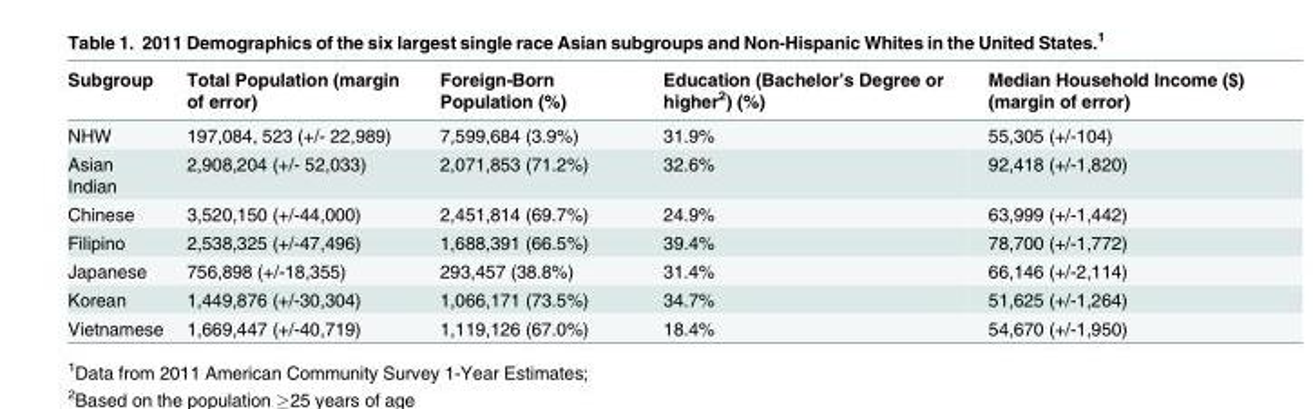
<table><thead><tr><td>Subgroup</td><td>Total Population (margin of error)</td><td>Foreign-Born Population (%)</td><td>Education (Bachelor’s Degree or higher<sup>2</sup>) (%)</td><td>Median Household Income ($) (margin of error)</td></tr></thead><tbody><tr><td>NHW</td><td>197,084, 523 (+/- 22,989)</td><td>7,599,684 (3.9%)</td><td>31.9%</td><td>55,305 (+/-104)</td></tr><tr><td>Asian Indian</td><td>2,908,204 (+/- 52,033)</td><td>2,071,853 (71.2%)</td><td>32.6%</td><td>92,418 (+/-1,820)</td></tr><tr><td>Chinese</td><td>3,520,150 (+/-44,000)</td><td>2,451,814 (69.7%)</td><td>24.9%</td><td>63,999 (+/-1,442)</td></tr><tr><td>Filipino</td><td>2,538,325 (+/-47,496)</td><td>1,688,391 (66.5%)</td><td>39.4%</td><td>78,700 (+/-1,772)</td></tr><tr><td>Japanese</td><td>756,898 (+/-18,355)</td><td>293,457 (38.8%)</td><td>31.4%</td><td>66,146 (+/-2,114)</td></tr><tr><td>Korean</td><td>1,449,876 (+/-30,304)</td><td>1,066,171 (73.5%)</td><td>34.7%</td><td>51,625 (+/-1,264)</td></tr><tr><td>Vietnamese</td><td>1,669,447 (+/-40,719)</td><td>1,119,126 (67.0%)</td><td>18.4%</td><td>54,670 (+/-1,950)</td></tr></tbody></table>